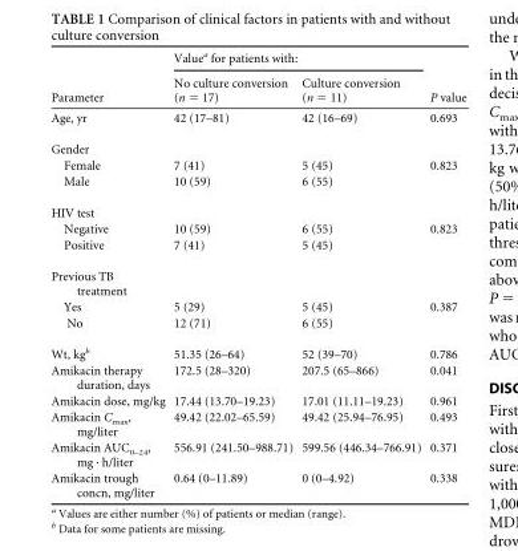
<table><thead><tr><td rowspan="2">Parameter</td><td colspan="2">Value<sup>a</sup> for patients with:</td><td rowspan="2">P value</td></tr><tr><td>No culture conversion (n = 17)</td><td>Culture conversion (n = 11)</td></tr></thead><tbody><tr><td>Age, yr</td><td>42 (17–81)</td><td>42 (16–69)</td><td>0.693</td></tr><tr><td colspan="4">Gender</td></tr><tr><td>Female</td><td>7 (41)</td><td>5 (45)</td><td>0.823</td></tr><tr><td>Male</td><td>10 (59)</td><td>6 (55)</td><td></td></tr><tr><td colspan="4">HIV test</td></tr><tr><td>Negative</td><td>10 (59)</td><td>6 (55)</td><td>0.823</td></tr><tr><td>Positive</td><td>7 (41)</td><td>5 (45)</td><td></td></tr><tr><td colspan="4">Previous TB treatment</td></tr><tr><td>Yes</td><td>5 (29)</td><td>5 (45)</td><td>0.387</td></tr><tr><td>No</td><td>12 (71)</td><td>6 (55)</td><td></td></tr><tr><td>Wt, kg<sup>b</sup></td><td>51.35 (26–64)</td><td>52 (39–70)</td><td>0.786</td></tr><tr><td>Amikacin therapy duration, days</td><td>172.5 (28–320)</td><td>207.5 (65–866)</td><td>0.041</td></tr><tr><td>Amikacin dose, mg/kg</td><td>17.44 (13.70–19.23)</td><td>17.01 (11.11–19.23)</td><td>0.961</td></tr><tr><td>Amikacin C<sub>max</sub>, mg/liter</td><td>49.42 (22.02–65.59)</td><td>49.42 (25.94–76.95)</td><td>0.493</td></tr><tr><td>Amikacin AUC<sub>0–24</sub>, mg · h/liter</td><td>556.91 (241.50–988.71)</td><td>599.56 (446.34–766.91)</td><td>0.371</td></tr><tr><td>Amikacin trough concn, mg/liter</td><td>0.64 (0–11.89)</td><td>0 (0–4.92)</td><td>0.338</td></tr></tbody></table>